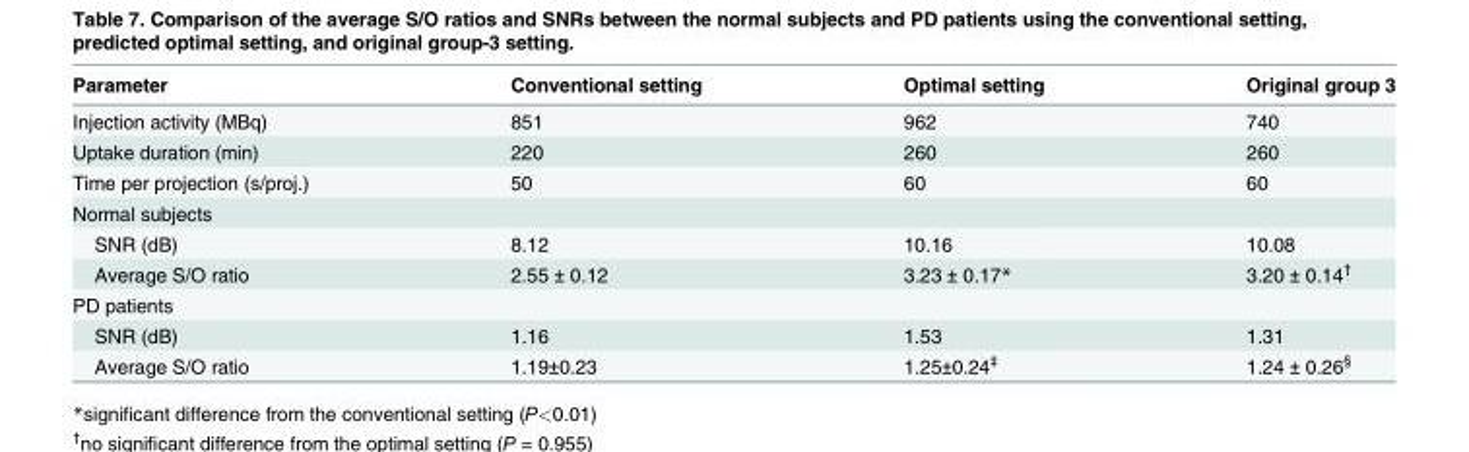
<table><thead><tr><td>Parameter</td><td>Conventional setting</td><td>Optimal setting</td><td>Original group 3</td></tr></thead><tbody><tr><td>Injection activity (MBq)</td><td>851</td><td>962</td><td>740</td></tr><tr><td>Uptake duration (min)</td><td>220</td><td>260</td><td>260</td></tr><tr><td>Time per projection (s/proj.)</td><td>50</td><td>60</td><td>60</td></tr><tr><td colspan="4">Normal subjects</td></tr><tr><td>SNR (dB)</td><td>8.12</td><td>10.16</td><td>10.08</td></tr><tr><td>Average S/O ratio</td><td>2.55 ± 0.12</td><td>3.23 ± 0.17*</td><td>3.20 ± 0.14<sup>†</sup></td></tr><tr><td colspan="4">PD patients</td></tr><tr><td>SNR (dB)</td><td>1.16</td><td>1.53</td><td>1.31</td></tr><tr><td>Average S/O ratio</td><td>1.19±0.23</td><td>1.25±0.24<sup>‡</sup></td><td>1.24 ± 0.26<sup>§</sup></td></tr></tbody></table>